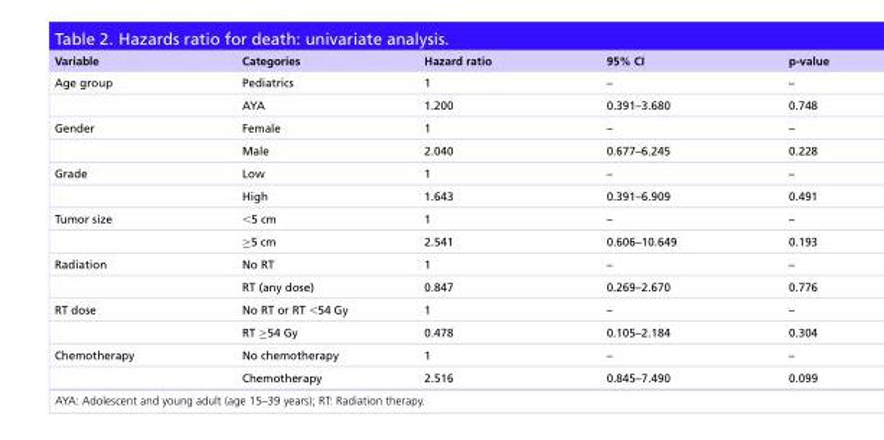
<table><thead><tr><td>Variable</td><td>Categories</td><td>Hazard ratio</td><td>95% CI</td><td>p-value</td></tr></thead><tbody><tr><td rowspan="2">Age group</td><td>Pediatrics</td><td>1</td><td>–</td><td>–</td></tr><tr><td>AYA</td><td>1.200</td><td>0.391–3.680</td><td>0.748</td></tr><tr><td rowspan="2">Gender</td><td>Female</td><td>1</td><td>–</td><td>–</td></tr><tr><td>Male</td><td>2.040</td><td>0.677–6.245</td><td>0.228</td></tr><tr><td rowspan="2">Grade</td><td>Low</td><td>1</td><td>–</td><td>–</td></tr><tr><td>High</td><td>1.643</td><td>0.391–6.909</td><td>0.491</td></tr><tr><td rowspan="2">Tumor size</td><td>&lt;5 cm</td><td>1</td><td>–</td><td>–</td></tr><tr><td>≥5 cm</td><td>2.541</td><td>0.606–10.649</td><td>0.193</td></tr><tr><td rowspan="2">Radiation</td><td>No RT</td><td>1</td><td>–</td><td>–</td></tr><tr><td>RT (any dose)</td><td>0.847</td><td>0.269–2.670</td><td>0.776</td></tr><tr><td rowspan="2">RT dose</td><td>No RT or RT &lt;54 Gy</td><td>1</td><td>–</td><td>–</td></tr><tr><td>RT ≥54 Gy</td><td>0.478</td><td>0.105–2.184</td><td>0.304</td></tr><tr><td rowspan="2">Chemotherapy</td><td>No chemotherapy</td><td>1</td><td>–</td><td>–</td></tr><tr><td>Chemotherapy</td><td>2.516</td><td>0.845–7.490</td><td>0.099</td></tr></tbody></table>